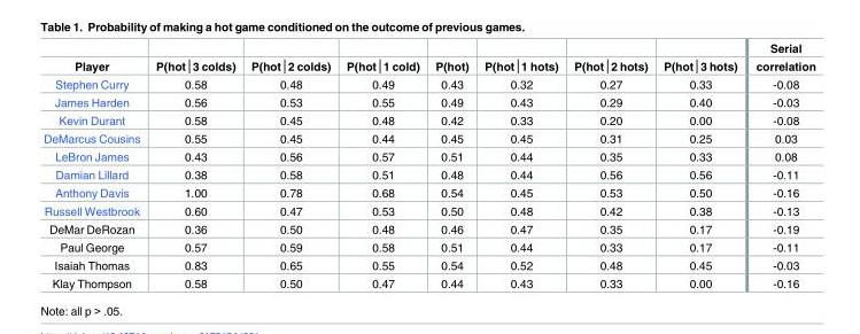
<table><thead><tr><td rowspan="2">Player</td><td rowspan="2">P(hot│3 colds)</td><td rowspan="2">P(hot│2 colds)</td><td rowspan="2">P(hot│1 cold)</td><td rowspan="2">P(hot)</td><td rowspan="2">P(hot│1 hots)</td><td rowspan="2">P(hot│2 hots)</td><td rowspan="2">P(hot│3 hots)</td><td rowspan="2">Serial correlation</td></tr><tr></tr></thead><tbody><tr><td>Stephen Curry</td><td>0.58</td><td>0.48</td><td>0.49</td><td>0.43</td><td>0.32</td><td>0.27</td><td>0.33</td><td>-0.08</td></tr><tr><td>James Harden</td><td>0.56</td><td>0.53</td><td>0.55</td><td>0.49</td><td>0.43</td><td>0.29</td><td>0.40</td><td>-0.03</td></tr><tr><td>Kevin Durant</td><td>0.58</td><td>0.45</td><td>0.48</td><td>0.42</td><td>0.33</td><td>0.20</td><td>0.00</td><td>-0.08</td></tr><tr><td>DeMarcus Cousins</td><td>0.55</td><td>0.45</td><td>0.44</td><td>0.45</td><td>0.45</td><td>0.31</td><td>0.25</td><td>0.03</td></tr><tr><td>LeBron James</td><td>0.43</td><td>0.56</td><td>0.57</td><td>0.51</td><td>0.44</td><td>0.35</td><td>0.33</td><td>0.08</td></tr><tr><td>Damian Lillard</td><td>0.38</td><td>0.58</td><td>0.51</td><td>0.48</td><td>0.44</td><td>0.56</td><td>0.56</td><td>-0.11</td></tr><tr><td>Anthony Davis</td><td>1.00</td><td>0.78</td><td>0.68</td><td>0.54</td><td>0.45</td><td>0.53</td><td>0.50</td><td>-0.16</td></tr><tr><td>Russell Westbrook</td><td>0.60</td><td>0.47</td><td>0.53</td><td>0.50</td><td>0.48</td><td>0.42</td><td>0.38</td><td>-0.13</td></tr><tr><td>DeMar DeRozan</td><td>0.36</td><td>0.50</td><td>0.48</td><td>0.46</td><td>0.47</td><td>0.35</td><td>0.17</td><td>-0.19</td></tr><tr><td>Paul George</td><td>0.57</td><td>0.59</td><td>0.58</td><td>0.51</td><td>0.44</td><td>0.33</td><td>0.17</td><td>-0.11</td></tr><tr><td>Isaiah Thomas</td><td>0.83</td><td>0.65</td><td>0.55</td><td>0.54</td><td>0.52</td><td>0.48</td><td>0.45</td><td>-0.03</td></tr><tr><td>Klay Thompson</td><td>0.58</td><td>0.50</td><td>0.47</td><td>0.44</td><td>0.43</td><td>0.33</td><td>0.00</td><td>-0.16</td></tr></tbody></table>